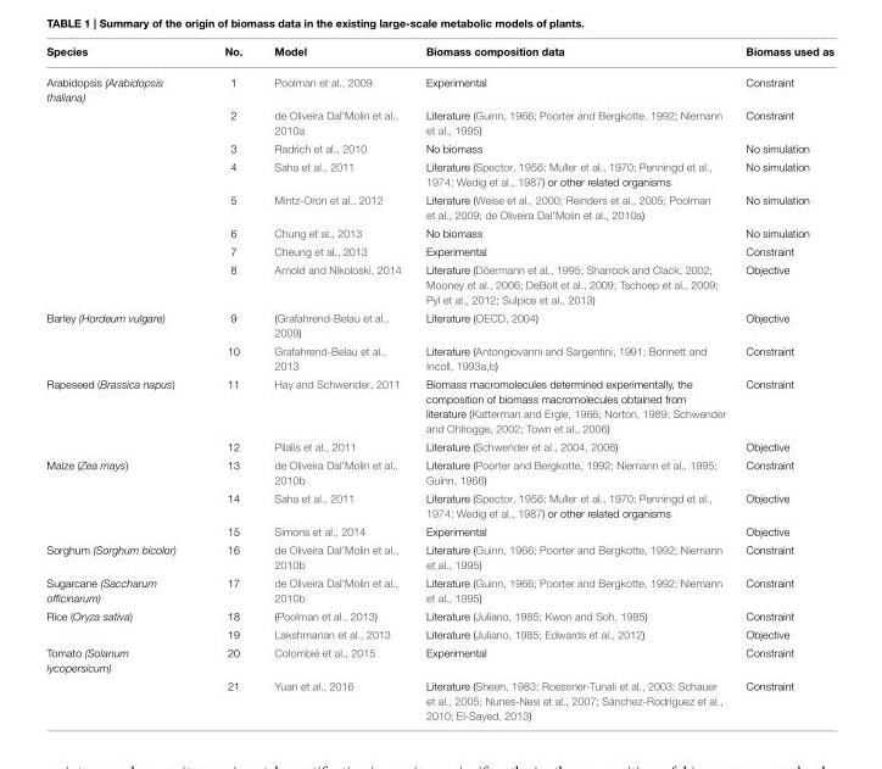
<table><thead><tr><td>Species</td><td>No.</td><td>Model</td><td>Biomass composition data</td><td>Biomass used as</td></tr></thead><tbody><tr><td rowspan="8">Arabidopsis (Arabidopsis thaliana)</td><td>1</td><td>Poolman et al., 2009</td><td>Experimental</td><td>Constraint</td></tr><tr><td>2</td><td>de Oliveira Dal’Molin et al., 2010a</td><td>Literature (Guinn, 1966; Poorter and Bergkotte, 1992; Niemann et al., 1995)</td><td>Constraint</td></tr><tr><td>3</td><td>Radrich et al., 2010</td><td>No biomass</td><td>No simulation</td></tr><tr><td>4</td><td>Saha et al., 2011</td><td>Literature (Spector, 1956; Muller et al., 1970; Penningd et al., 1974; Wedig et al., 1987) or other related organisms</td><td>No simulation</td></tr><tr><td>5</td><td>Mintz-Oron et al., 2012</td><td>Literature (Weise et al., 2000; Reinders et al., 2005; Poolman et al., 2009; de Oliveira Dal’Molin et al., 2010a)</td><td>No simulation</td></tr><tr><td>6</td><td>Chung et al., 2013</td><td>No biomass</td><td>No simulation</td></tr><tr><td>7</td><td>Cheung et al., 2013</td><td>Experimental</td><td>Constraint</td></tr><tr><td>8</td><td>Arnold and Nikoloski, 2014</td><td>Literature (Döermann et al., 1995; Sharrock and Clack, 2002; Mooney et al., 2006; DeBolt et al., 2009; Tschoep et al., 2009; Pyl et al., 2012; Sulpice et al., 2013)</td><td>Objective</td></tr><tr><td rowspan="2">Barley (Hordeum vulgare)</td><td>9</td><td>(Grafahrend-Belau et al., 2009)</td><td>Literature (OECD, 2004)</td><td>Objective</td></tr><tr><td>10</td><td>Grafahrend-Belau et al., 2013</td><td>Literature (Antongiovanni and Sargentini, 1991; Bonnett and Incoll, 1993a,b)</td><td>Constraint</td></tr><tr><td rowspan="2">Rapeseed (Brassica napus)</td><td>11</td><td>Hay and Schwender, 2011</td><td>Biomass macromolecules determined experimentally, the composition of biomass macromolecules obtained from literature (Katterman and Ergle, 1966; Norton, 1989; Schwender and Ohlrogge, 2002; Town et al., 2006)</td><td>Constraint</td></tr><tr><td>12</td><td>Pilalis et al., 2011</td><td>Literature (Schwender et al., 2004, 2006)</td><td>Objective</td></tr><tr><td rowspan="3">Maize (Zea mays)</td><td>13</td><td>de Oliveira Dal’Molin et al., 2010b</td><td>Literature (Poorter and Bergkotte, 1992; Niemann et al., 1995; Guinn, 1966)</td><td>Constraint</td></tr><tr><td>14</td><td>Saha et al., 2011</td><td>Literature (Spector, 1956; Muller et al., 1970; Penningd et al., 1974; Wedig et al., 1987) or other related organisms</td><td>Objective</td></tr><tr><td>15</td><td>Simons et al., 2014</td><td>Experimental</td><td>Objective</td></tr><tr><td>Sorghum (Sorghum bicolor)</td><td>16</td><td>de Oliveira Dal’Molin et al., 2010b</td><td>Literature (Guinn, 1966; Poorter and Bergkotte, 1992; Niemann et al., 1995)</td><td>Constraint</td></tr><tr><td>Sugarcane (Saccharum officinarum)</td><td>17</td><td>de Oliveira Dal’Molin et al., 2010b</td><td>Literature (Guinn, 1966; Poorter and Bergkotte, 1992; Niemann et al., 1995)</td><td>Constraint</td></tr><tr><td rowspan="2">Rice (Oryza sativa)</td><td>18</td><td>(Poolman et al., 2013)</td><td>Literature (Juliano, 1985; Kwon and Soh, 1985)</td><td>Constraint</td></tr><tr><td>19</td><td>Lakshmanan et al., 2013</td><td>Literature (Juliano, 1985; Edwards et al., 2012)</td><td>Objective</td></tr><tr><td rowspan="2">Tomato (Solanum lycopersicum)</td><td>20</td><td>Colombié et al., 2015</td><td>Experimental</td><td>Constraint</td></tr><tr><td>21</td><td>Yuan et al., 2016</td><td>Literature (Sheen, 1983; Roessner-Tunali et al., 2003; Schauer et al., 2005; Nunes-Nesi et al., 2007; Sánchez-Rodríguez et al., 2010; El-Sayed, 2013)</td><td>Constraint</td></tr></tbody></table>